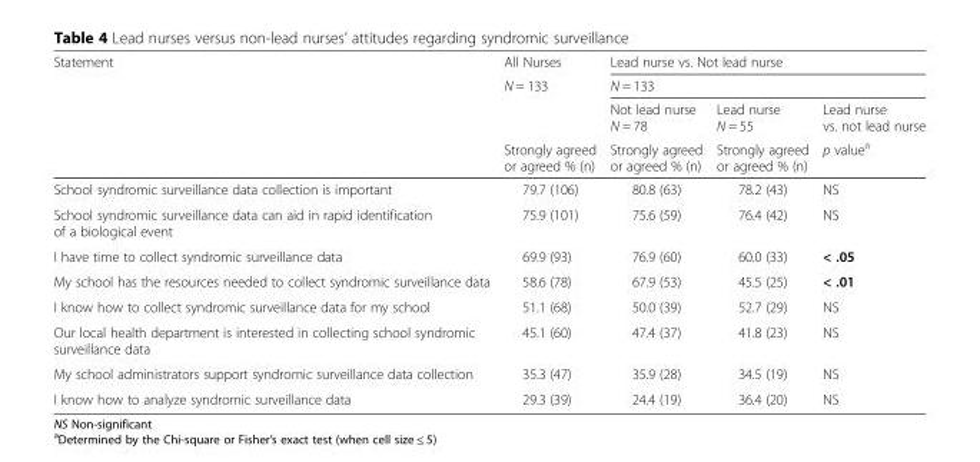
<table><thead><tr><td rowspan="4">Statement</td><td rowspan="4">All Nurses N = 133 Strongly agreed or agreed % (n)</td><td rowspan="2" colspan="3">Lead nurse vs. Not lead nurse N = 133</td></tr><tr></tr><tr><td rowspan="2">Not lead nurse N = 78 Strongly agreed or agreed % (n)</td><td rowspan="2">Lead nurse N = 55 Strongly agreed or agreed % (n)</td><td rowspan="2">Lead nurse vs. not lead nurse p valuea</td></tr><tr></tr></thead><tbody><tr><td>School syndromic surveillance data collection is important</td><td>79.7 (106)</td><td>80.8 (63)</td><td>78.2 (43)</td><td>NS</td></tr><tr><td>School syndromic surveillance data can aid in rapid identification of a biological event</td><td>75.9 (101)</td><td>75.6 (59)</td><td>76.4 (42)</td><td>NS</td></tr><tr><td>I have time to collect syndromic surveillance data</td><td>69.9 (93)</td><td>76.9 (60)</td><td>60.0 (33)</td><td>&lt; .05</td></tr><tr><td>My school has the resources needed to collect syndromic surveillance data</td><td>58.6 (78)</td><td>67.9 (53)</td><td>45.5 (25)</td><td>&lt; .01</td></tr><tr><td>I know how to collect syndromic surveillance data for my school</td><td>51.1 (68)</td><td>50.0 (39)</td><td>52.7 (29)</td><td>NS</td></tr><tr><td>Our local health department is interested in collecting school syndromic surveillance data</td><td>45.1 (60)</td><td>47.4 (37)</td><td>41.8 (23)</td><td>NS</td></tr><tr><td>My school administrators support syndromic surveillance data collection</td><td>35.3 (47)</td><td>35.9 (28)</td><td>34.5 (19)</td><td>NS</td></tr><tr><td>I know how to analyze syndromic surveillance data</td><td>29.3 (39)</td><td>24.4 (19)</td><td>36.4 (20)</td><td>NS</td></tr></tbody></table>